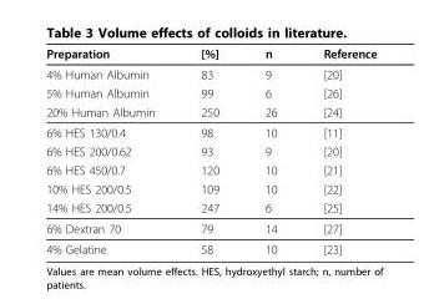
<table><thead><tr><td>Preparation</td><td>[%]</td><td>n</td><td>Reference</td></tr></thead><tbody><tr><td>4% Human Albumin</td><td>83</td><td>9</td><td>[20]</td></tr><tr><td>5% Human Albumin</td><td>99</td><td>6</td><td>[26]</td></tr><tr><td>20% Human Albumin</td><td>250</td><td>26</td><td>[24]</td></tr><tr><td>6% HES 130/0.4</td><td>98</td><td>10</td><td>[11]</td></tr><tr><td>6% HES 200/0.62</td><td>93</td><td>9</td><td>[20]</td></tr><tr><td>6% HES 450/0.7</td><td>120</td><td>10</td><td>[21]</td></tr><tr><td>10% HES 200/0.5</td><td>109</td><td>10</td><td>[22]</td></tr><tr><td>14% HES 200/0.5</td><td>247</td><td>6</td><td>[25]</td></tr><tr><td>6% Dextran 70</td><td>79</td><td>14</td><td>[27]</td></tr><tr><td>4% Gelatine</td><td>58</td><td>10</td><td>[23]</td></tr></tbody></table>